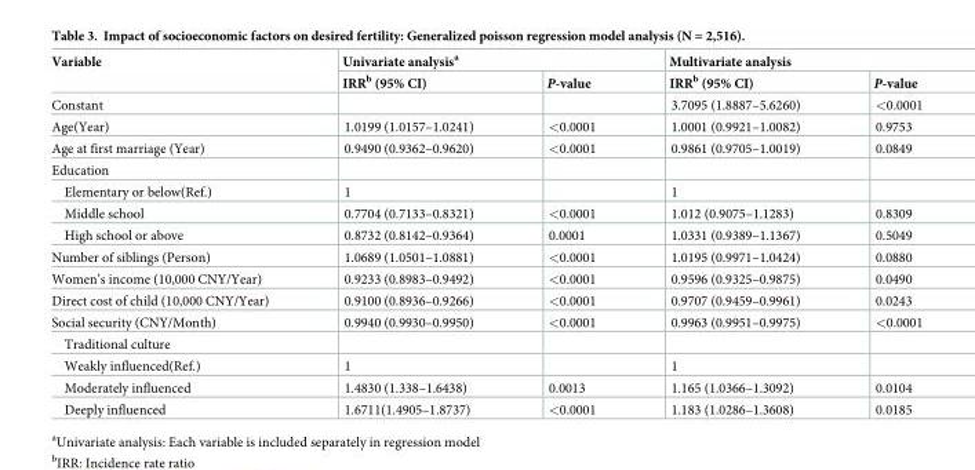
<table><thead><tr><td rowspan="2">Variable</td><td colspan="2">Univariate analysis<sup>a</sup></td><td colspan="2">Multivariate analysis</td></tr><tr><td>IRR<sup>b</sup> (95% CI)</td><td>P-value</td><td>IRR<sup>b</sup> (95% CI)</td><td>P-value</td></tr></thead><tbody><tr><td>Constant</td><td></td><td></td><td>3.7095 (1.8887–5.6260)</td><td>&lt;0.0001</td></tr><tr><td>Age(Year)</td><td>1.0199 (1.0157–1.0241)</td><td>&lt;0.0001</td><td>1.0001 (0.9921–1.0082)</td><td>0.9753</td></tr><tr><td>Age at first marriage (Year)</td><td>0.9490 (0.9362–0.9620)</td><td>&lt;0.0001</td><td>0.9861 (0.9705–1.0019)</td><td>0.0849</td></tr><tr><td colspan="5">Education</td></tr><tr><td>Elementary or below(Ref.)</td><td>1</td><td></td><td>1</td><td></td></tr><tr><td>Middle school</td><td>0.7704 (0.7133–0.8321)</td><td>&lt;0.0001</td><td>1.012 (0.9075–1.1283)</td><td>0.8309</td></tr><tr><td>High school or above</td><td>0.8732 (0.8142–0.9364)</td><td>0.0001</td><td>1.0331 (0.9389–1.1367)</td><td>0.5049</td></tr><tr><td>Number of siblings (Person)</td><td>1.0689 (1.0501–1.0881)</td><td>&lt;0.0001</td><td>1.0195 (0.9971–1.0424)</td><td>0.0880</td></tr><tr><td>Women’s income (10,000 CNY/Year)</td><td>0.9233 (0.8983–0.9492)</td><td>&lt;0.0001</td><td>0.9596 (0.9325–0.9875)</td><td>0.0490</td></tr><tr><td>Direct cost of child (10,000 CNY/Year)</td><td>0.9100 (0.8936–0.9266)</td><td>&lt;0.0001</td><td>0.9707 (0.9459–0.9961)</td><td>0.0243</td></tr><tr><td>Social security (CNY/Month)</td><td>0.9940 (0.9930–0.9950)</td><td>&lt;0.0001</td><td>0.9963 (0.9951–0.9975)</td><td>&lt;0.0001</td></tr><tr><td colspan="5">Traditional culture</td></tr><tr><td>Weakly influenced(Ref.)</td><td>1</td><td></td><td>1</td><td></td></tr><tr><td>Moderately influenced</td><td>1.4830 (1.338–1.6438)</td><td>0.0013</td><td>1.165 (1.0366–1.3092)</td><td>0.0104</td></tr><tr><td>Deeply influenced</td><td>1.6711(1.4905–1.8737)</td><td>&lt;0.0001</td><td>1.183 (1.0286–1.3608)</td><td>0.0185</td></tr></tbody></table>